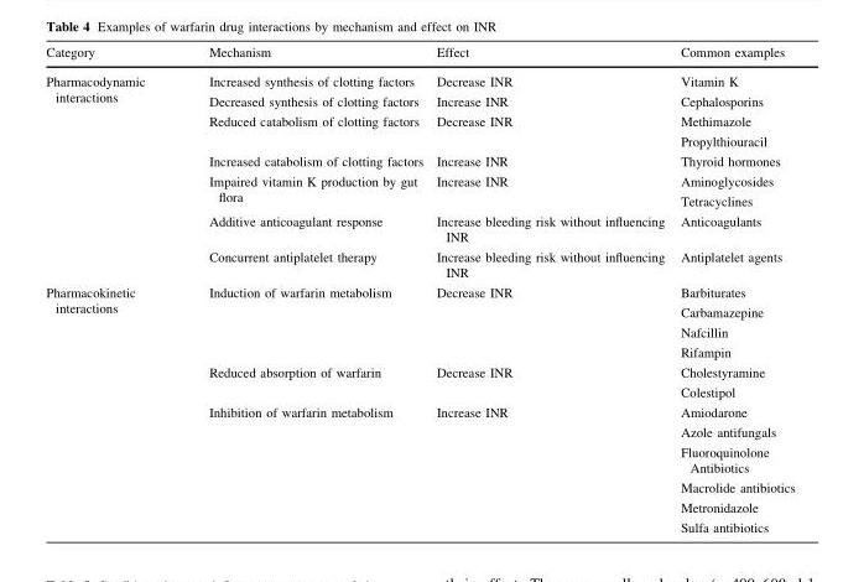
<table><thead><tr><td>Category</td><td>Mechanism</td><td>Effect</td><td>Common examples</td></tr></thead><tbody><tr><td rowspan="7">Pharmacodynamic interactions</td><td>Increased synthesis of clotting factors</td><td>Decrease INR</td><td>Vitamin K</td></tr><tr><td>Decreased synthesis of clotting factors</td><td>Increase INR</td><td>Cephalosporins</td></tr><tr><td>Reduced catabolism of clotting factors</td><td>Decrease INR</td><td>Methimazole Propylthiouracil</td></tr><tr><td>Increased catabolism of clotting factors</td><td>Increase INR</td><td>Thyroid hormones</td></tr><tr><td>Impaired vitamin K production by gut flora</td><td>Increase INR</td><td>Aminoglycosides Tetracyclines</td></tr><tr><td>Additive anticoagulant response</td><td>Increase bleeding risk without influencing INR</td><td>Anticoagulants</td></tr><tr><td>Concurrent antiplatelet therapy</td><td>Increase bleeding risk without influencing INR</td><td>Antiplatelet agents</td></tr><tr><td rowspan="3">Pharmacokinetic interactions</td><td>Induction of warfarin metabolism</td><td>Decrease INR</td><td>Barbiturates Carbamazepine Nafcillin Rifampin</td></tr><tr><td>Reduced absorption of warfarin</td><td>Decrease INR</td><td>Cholestyramine Colestipol</td></tr><tr><td>Inhibition of warfarin metabolism</td><td>Increase INR</td><td>Amiodarone Azole antifungals Fluoroquinolone Antibiotics Macrolide antibiotics Metronidazole Sulfa antibiotics</td></tr></tbody></table>